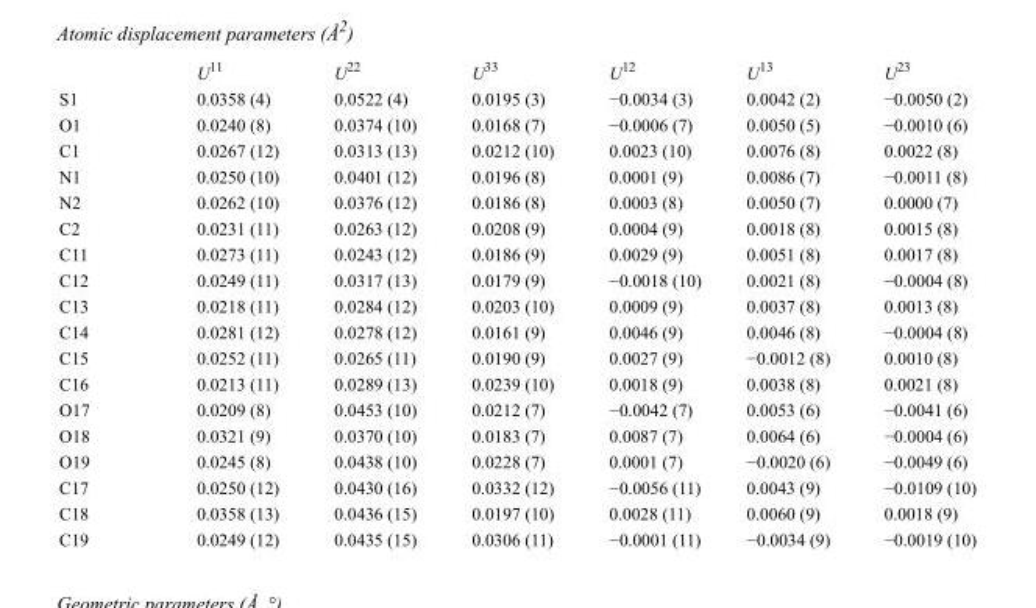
<table><thead><tr><td></td><td>U<sup>11</sup></td><td>U<sup>22</sup></td><td>U<sup>33</sup></td><td>U<sup>12</sup></td><td>U<sup>13</sup></td><td>U<sup>23</sup></td></tr></thead><tbody><tr><td>S1</td><td>0.0358 (4)</td><td>0.0522 (4)</td><td>0.0195 (3)</td><td>−0.0034 (3)</td><td>0.0042 (2)</td><td>−0.0050 (2)</td></tr><tr><td>O1</td><td>0.0240 (8)</td><td>0.0374 (10)</td><td>0.0168 (7)</td><td>−0.0006 (7)</td><td>0.0050 (5)</td><td>−0.0010 (6)</td></tr><tr><td>C1</td><td>0.0267 (12)</td><td>0.0313 (13)</td><td>0.0212 (10)</td><td>0.0023 (10)</td><td>0.0076 (8)</td><td>0.0022 (8)</td></tr><tr><td>N1</td><td>0.0250 (10)</td><td>0.0401 (12)</td><td>0.0196 (8)</td><td>0.0001 (9)</td><td>0.0086 (7)</td><td>−0.0011 (8)</td></tr><tr><td>N2</td><td>0.0262 (10)</td><td>0.0376 (12)</td><td>0.0186 (8)</td><td>0.0003 (8)</td><td>0.0050 (7)</td><td>0.0000 (7)</td></tr><tr><td>C2</td><td>0.0231 (11)</td><td>0.0263 (12)</td><td>0.0208 (9)</td><td>0.0004 (9)</td><td>0.0018 (8)</td><td>0.0015 (8)</td></tr><tr><td>C11</td><td>0.0273 (11)</td><td>0.0243 (12)</td><td>0.0186 (9)</td><td>0.0029 (9)</td><td>0.0051 (8)</td><td>0.0017 (8)</td></tr><tr><td>C12</td><td>0.0249 (11)</td><td>0.0317 (13)</td><td>0.0179 (9)</td><td>−0.0018 (10)</td><td>0.0021 (8)</td><td>−0.0004 (8)</td></tr><tr><td>C13</td><td>0.0218 (11)</td><td>0.0284 (12)</td><td>0.0203 (10)</td><td>0.0009 (9)</td><td>0.0037 (8)</td><td>0.0013 (8)</td></tr><tr><td>C14</td><td>0.0281 (12)</td><td>0.0278 (12)</td><td>0.0161 (9)</td><td>0.0046 (9)</td><td>0.0046 (8)</td><td>−0.0004 (8)</td></tr><tr><td>C15</td><td>0.0252 (11)</td><td>0.0265 (11)</td><td>0.0190 (9)</td><td>0.0027 (9)</td><td>−0.0012 (8)</td><td>0.0010 (8)</td></tr><tr><td>C16</td><td>0.0213 (11)</td><td>0.0289 (13)</td><td>0.0239 (10)</td><td>0.0018 (9)</td><td>0.0038 (8)</td><td>0.0021 (8)</td></tr><tr><td>O17</td><td>0.0209 (8)</td><td>0.0453 (10)</td><td>0.0212 (7)</td><td>−0.0042 (7)</td><td>0.0053 (6)</td><td>−0.0041 (6)</td></tr><tr><td>O18</td><td>0.0321 (9)</td><td>0.0370 (10)</td><td>0.0183 (7)</td><td>0.0087 (7)</td><td>0.0064 (6)</td><td>−0.0004 (6)</td></tr><tr><td>O19</td><td>0.0245 (8)</td><td>0.0438 (10)</td><td>0.0228 (7)</td><td>0.0001 (7)</td><td>−0.0020 (6)</td><td>−0.0049 (6)</td></tr><tr><td>C17</td><td>0.0250 (12)</td><td>0.0430 (16)</td><td>0.0332 (12)</td><td>−0.0056 (11)</td><td>0.0043 (9)</td><td>−0.0109 (10)</td></tr><tr><td>C18</td><td>0.0358 (13)</td><td>0.0436 (15)</td><td>0.0197 (10)</td><td>0.0028 (11)</td><td>0.0060 (9)</td><td>0.0018 (9)</td></tr><tr><td>C19</td><td>0.0249 (12)</td><td>0.0435 (15)</td><td>0.0306 (11)</td><td>−0.0001 (11)</td><td>−0.0034 (9)</td><td>−0.0019 (10)</td></tr></tbody></table>